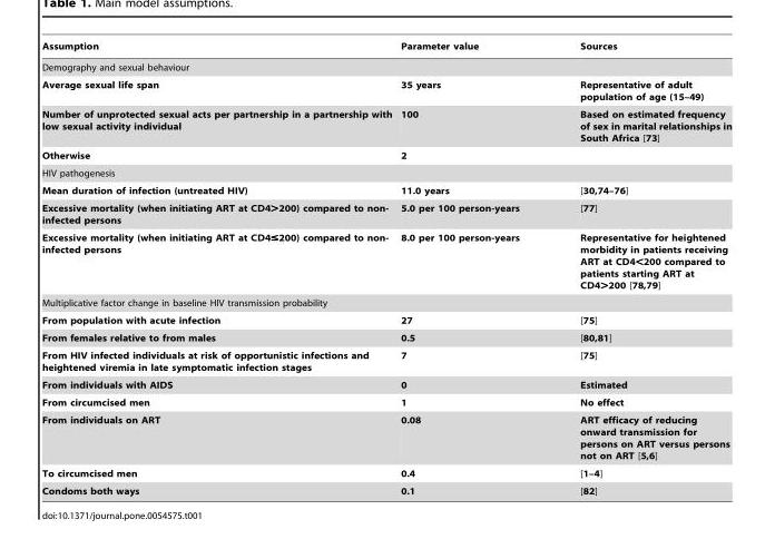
<table><thead><tr><td>Assumption</td><td>Parameter value</td><td>Sources</td></tr></thead><tbody><tr><td colspan="3">Demography and sexual behaviour</td></tr><tr><td>Average sexual life span</td><td>35 years</td><td>Representative of adult population of age (15–49)</td></tr><tr><td>Number of unprotected sexual acts per partnership in a partnership with low sexual activity individual</td><td>100</td><td>Based on estimated frequency of sex in marital relationships in South Africa [73]</td></tr><tr><td>Otherwise</td><td>2</td><td></td></tr><tr><td colspan="3">HIV pathogenesis</td></tr><tr><td>Mean duration of infection (untreated HIV)</td><td>11.0 years</td><td>[30,74–76]</td></tr><tr><td>Excessive mortality (when initiating ART at CD4&gt;200) compared to non- infected persons</td><td>5.0 per 100 person-years</td><td>[77]</td></tr><tr><td>Excessive mortality (when initiating ART at CD4≤200) compared to non- infected persons</td><td>8.0 per 100 person-years</td><td>Representative for heightened morbidity in patients receiving ART at CD4,200 compared to patients starting ART at CD4.200 [78,79]</td></tr><tr><td colspan="3">Multiplicative factor change in baseline HIV transmission probability</td></tr><tr><td>From population with acute infection</td><td>27</td><td>[75]</td></tr><tr><td>From females relative to from males</td><td>0.5</td><td>[80,81]</td></tr><tr><td>From HIV infected individuals at risk of opportunistic infections and heightened viremia in late symptomatic infection stages</td><td>7</td><td>[75]</td></tr><tr><td>From individuals with AIDS</td><td>0</td><td>Estimated</td></tr><tr><td>From circumcised men</td><td>1</td><td>No effect</td></tr><tr><td>From individuals on ART</td><td>0.08</td><td>ART efficacy of reducing onward transmission for persons on ART versus persons not on ART [5,6]</td></tr><tr><td>To circumcised men</td><td>0.4</td><td>[1–4]</td></tr><tr><td>Condoms both ways</td><td>0.1</td><td>[82]</td></tr></tbody></table>